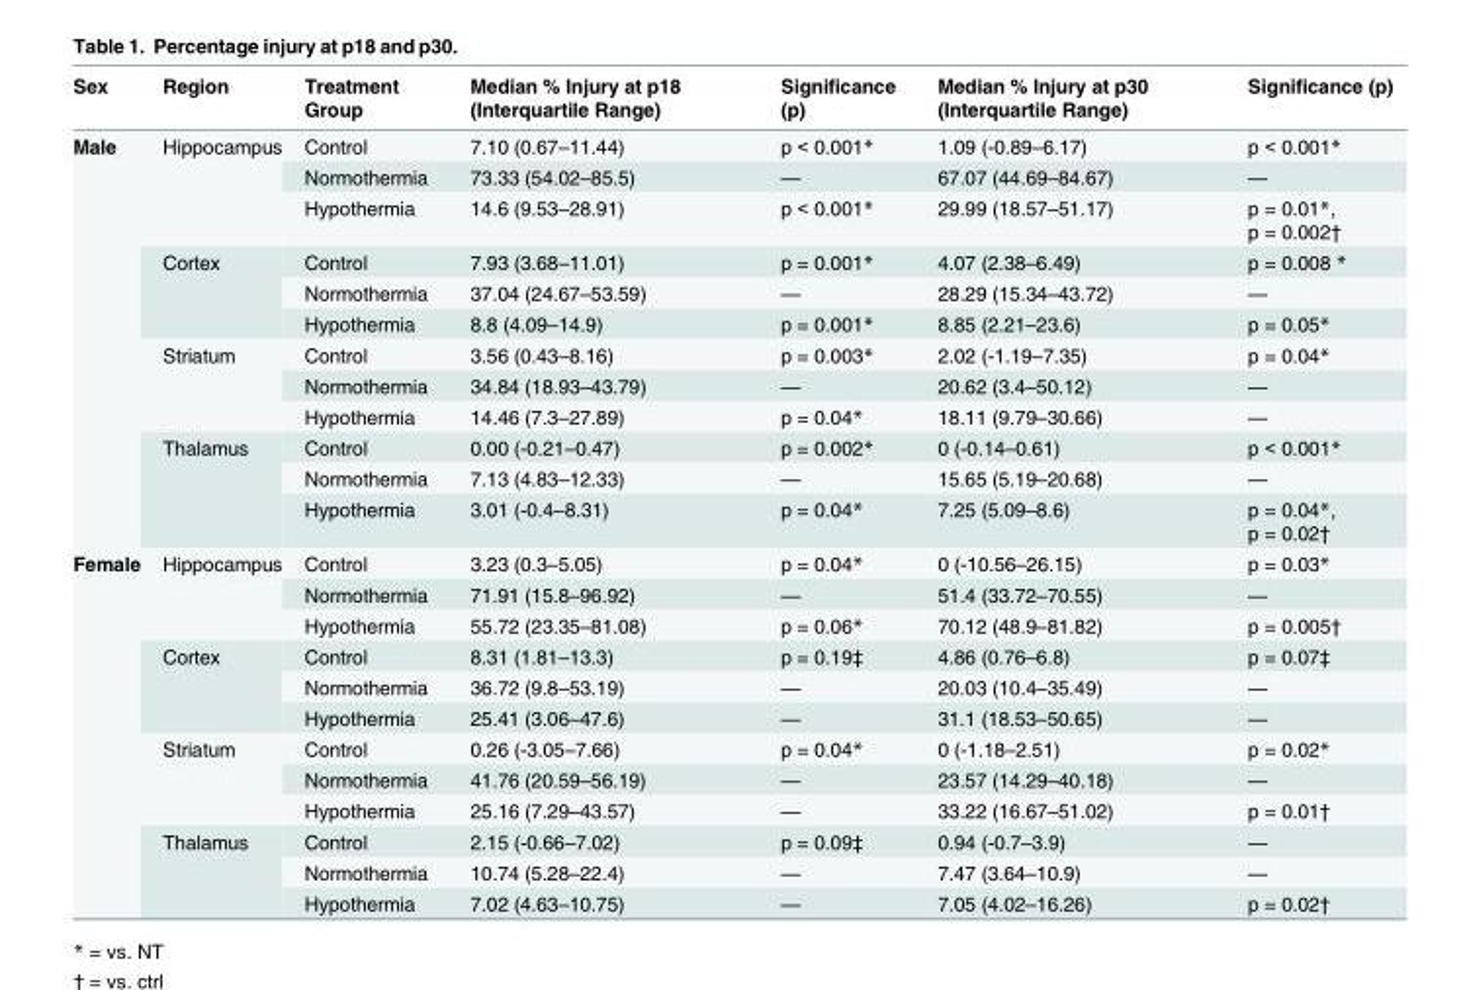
<table><thead><tr><td>Sex</td><td>Region</td><td>Treatment Group</td><td>Median % Injury at p18 (Interquartile Range)</td><td>Significance (p)</td><td>Median % Injury at p30 (Interquartile Range)</td><td>Significance (p)</td></tr></thead><tbody><tr><td rowspan="12">Male</td><td rowspan="3">Hippocampus</td><td>Control</td><td>7.10 (0.67–11.44)</td><td>p &lt; 0.001*</td><td>1.09 (-0.89–6.17)</td><td>p &lt; 0.001*</td></tr><tr><td>Normothermia</td><td>73.33 (54.02–85.5)</td><td>—</td><td>67.07 (44.69–84.67)</td><td>—</td></tr><tr><td>Hypothermia</td><td>14.6 (9.53–28.91)</td><td>p &lt; 0.001*</td><td>29.99 (18.57–51.17)</td><td>p = 0.01*, p = 0.002†</td></tr><tr><td rowspan="3">Cortex</td><td>Control</td><td>7.93 (3.68–11.01)</td><td>p = 0.001*</td><td>4.07 (2.38–6.49)</td><td>p = 0.008 *</td></tr><tr><td>Normothermia</td><td>37.04 (24.67–53.59)</td><td>—</td><td>28.29 (15.34–43.72)</td><td>—</td></tr><tr><td>Hypothermia</td><td>8.8 (4.09–14.9)</td><td>p = 0.001*</td><td>8.85 (2.21–23.6)</td><td>p = 0.05*</td></tr><tr><td rowspan="3">Striatum</td><td>Control</td><td>3.56 (0.43–8.16)</td><td>p = 0.003*</td><td>2.02 (-1.19–7.35)</td><td>p = 0.04*</td></tr><tr><td>Normothermia</td><td>34.84 (18.93–43.79)</td><td>—</td><td>20.62 (3.4–50.12)</td><td>—</td></tr><tr><td>Hypothermia</td><td>14.46 (7.3–27.89)</td><td>p = 0.04*</td><td>18.11 (9.79–30.66)</td><td>—</td></tr><tr><td rowspan="3">Thalamus</td><td>Control</td><td>0.00 (-0.21–0.47)</td><td>p = 0.002*</td><td>0 (-0.14–0.61)</td><td>p &lt; 0.001*</td></tr><tr><td>Normothermia</td><td>7.13 (4.83–12.33)</td><td>—</td><td>15.65 (5.19–20.68)</td><td>—</td></tr><tr><td>Hypothermia</td><td>3.01 (-0.4–8.31)</td><td>p = 0.04*</td><td>7.25 (5.09–8.6)</td><td>p = 0.04*, p = 0.02†</td></tr><tr><td rowspan="12">Female</td><td rowspan="3">Hippocampus</td><td>Control</td><td>3.23 (0.3–5.05)</td><td>p = 0.04*</td><td>0 (-10.56–26.15)</td><td>p = 0.03*</td></tr><tr><td>Normothermia</td><td>71.91 (15.8–96.92)</td><td>—</td><td>51.4 (33.72–70.55)</td><td>—</td></tr><tr><td>Hypothermia</td><td>55.72 (23.35–81.08)</td><td>p = 0.06*</td><td>70.12 (48.9–81.82)</td><td>p = 0.005†</td></tr><tr><td rowspan="3">Cortex</td><td>Control</td><td>8.31 (1.81–13.3)</td><td>p = 0.19‡</td><td>4.86 (0.76–6.8)</td><td>p = 0.07‡</td></tr><tr><td>Normothermia</td><td>36.72 (9.8–53.19)</td><td>—</td><td>20.03 (10.4–35.49)</td><td>—</td></tr><tr><td>Hypothermia</td><td>25.41 (3.06–47.6)</td><td>—</td><td>31.1 (18.53–50.65)</td><td>—</td></tr><tr><td rowspan="3">Striatum</td><td>Control</td><td>0.26 (-3.05–7.66)</td><td>p = 0.04*</td><td>0 (-1.18–2.51)</td><td>p = 0.02*</td></tr><tr><td>Normothermia</td><td>41.76 (20.59–56.19)</td><td>—</td><td>23.57 (14.29–40.18)</td><td>—</td></tr><tr><td>Hypothermia</td><td>25.16 (7.29–43.57)</td><td>—</td><td>33.22 (16.67–51.02)</td><td>p = 0.01†</td></tr><tr><td rowspan="3">Thalamus</td><td>Control</td><td>2.15 (-0.66–7.02)</td><td>p = 0.09‡</td><td>0.94 (-0.7–3.9)</td><td>—</td></tr><tr><td>Normothermia</td><td>10.74 (5.28–22.4)</td><td>—</td><td>7.47 (3.64–10.9)</td><td>—</td></tr><tr><td>Hypothermia</td><td>7.02 (4.63–10.75)</td><td>—</td><td>7.05 (4.02–16.26)</td><td>p = 0.02†</td></tr></tbody></table>